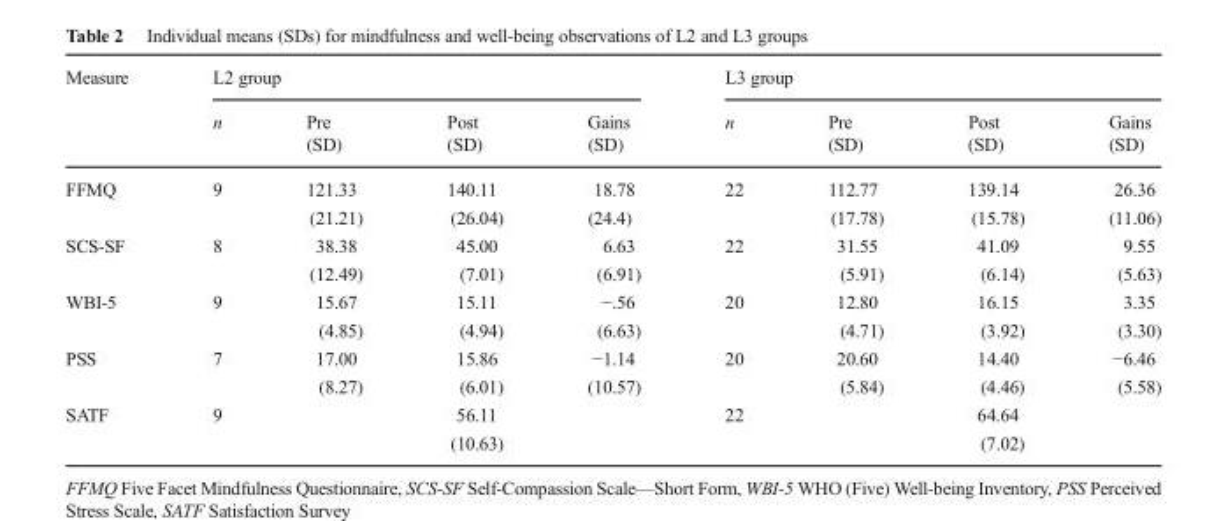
<table><thead><tr><td rowspan="3">Measure</td><td colspan="4">L2 group</td><td colspan="4">L3 group</td></tr><tr><td rowspan="2">n</td><td rowspan="2">Pre (SD)</td><td rowspan="2">Post (SD)</td><td rowspan="2">Gains (SD)</td><td rowspan="2">n</td><td rowspan="2">Pre (SD)</td><td rowspan="2">Post (SD)</td><td rowspan="2">Gains (SD)</td></tr><tr></tr></thead><tbody><tr><td rowspan="2">FFMQ</td><td rowspan="2">9</td><td>121.33</td><td>140.11</td><td>18.78</td><td rowspan="2">22</td><td>112.77</td><td>139.14</td><td>26.36</td></tr><tr><td>(21.21)</td><td>(26.04)</td><td>(24.4)</td><td>(17.78)</td><td>(15.78)</td><td>(11.06)</td></tr><tr><td rowspan="2">SCS-SF</td><td rowspan="2">8</td><td>38.38</td><td>45.00</td><td>6.63</td><td rowspan="2">22</td><td>31.55</td><td>41.09</td><td>9.55</td></tr><tr><td>(12.49)</td><td>(7.01)</td><td>(6.91)</td><td>(5.91)</td><td>(6.14)</td><td>(5.63)</td></tr><tr><td rowspan="2">WBI-5</td><td rowspan="2">9</td><td>15.67</td><td>15.11</td><td>−.56</td><td rowspan="2">20</td><td>12.80</td><td>16.15</td><td>3.35</td></tr><tr><td>(4.85)</td><td>(4.94)</td><td>(6.63)</td><td>(4.71)</td><td>(3.92)</td><td>(3.30)</td></tr><tr><td rowspan="2">PSS</td><td rowspan="2">7</td><td>17.00</td><td>15.86</td><td>−1.14</td><td rowspan="2">20</td><td>20.60</td><td>14.40</td><td>−6.46</td></tr><tr><td>(8.27)</td><td>(6.01)</td><td>(10.57)</td><td>(5.84)</td><td>(4.46)</td><td>(5.58)</td></tr><tr><td rowspan="2">SATF</td><td rowspan="2">9</td><td></td><td>56.11</td><td></td><td rowspan="2">22</td><td></td><td>64.64</td><td></td></tr><tr><td></td><td>(10.63)</td><td></td><td></td><td>(7.02)</td><td></td></tr></tbody></table>